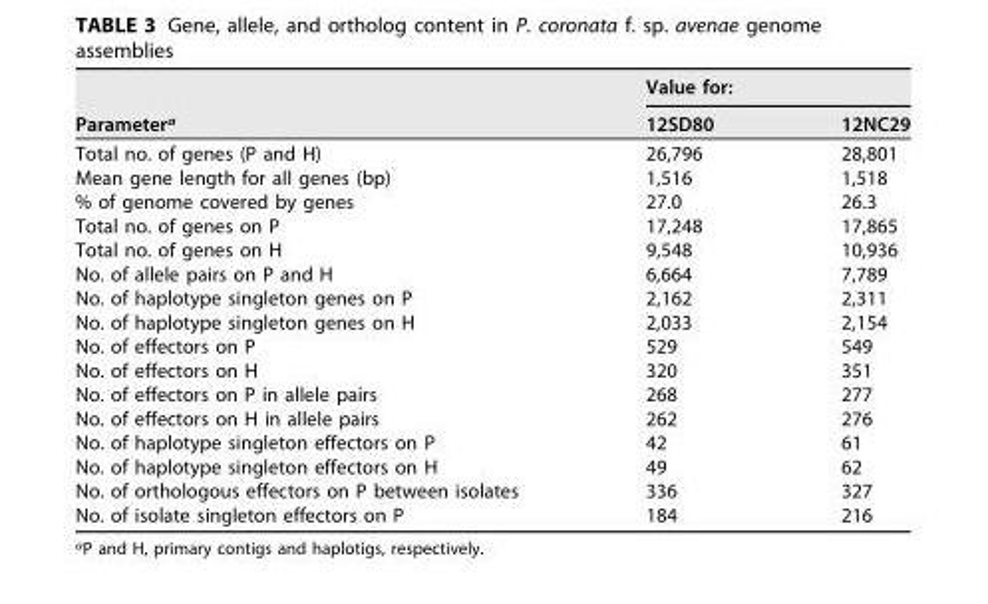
<table><thead><tr><td rowspan="2">Parameter<sup>a</sup></td><td colspan="2">Value for:</td></tr><tr><td>12SD80</td><td>12NC29</td></tr></thead><tbody><tr><td>Total no. of genes (P and H)</td><td>26,796</td><td>28,801</td></tr><tr><td>Mean gene length for all genes (bp)</td><td>1,516</td><td>1,518</td></tr><tr><td>% of genome covered by genes</td><td>27.0</td><td>26.3</td></tr><tr><td>Total no. of genes on P</td><td>17,248</td><td>17,865</td></tr><tr><td>Total no. of genes on H</td><td>9,548</td><td>10,936</td></tr><tr><td>No. of allele pairs on P and H</td><td>6,664</td><td>7,789</td></tr><tr><td>No. of haplotype singleton genes on P</td><td>2,162</td><td>2,311</td></tr><tr><td>No. of haplotype singleton genes on H</td><td>2,033</td><td>2,154</td></tr><tr><td>No. of effectors on P</td><td>529</td><td>549</td></tr><tr><td>No. of effectors on H</td><td>320</td><td>351</td></tr><tr><td>No. of effectors on P in allele pairs</td><td>268</td><td>277</td></tr><tr><td>No. of effectors on H in allele pairs</td><td>262</td><td>276</td></tr><tr><td>No. of haplotype singleton effectors on P</td><td>42</td><td>61</td></tr><tr><td>No. of haplotype singleton effectors on H</td><td>49</td><td>62</td></tr><tr><td>No. of orthologous effectors on P between isolates</td><td>336</td><td>327</td></tr><tr><td>No. of isolate singleton effectors on P</td><td>184</td><td>216</td></tr></tbody></table>